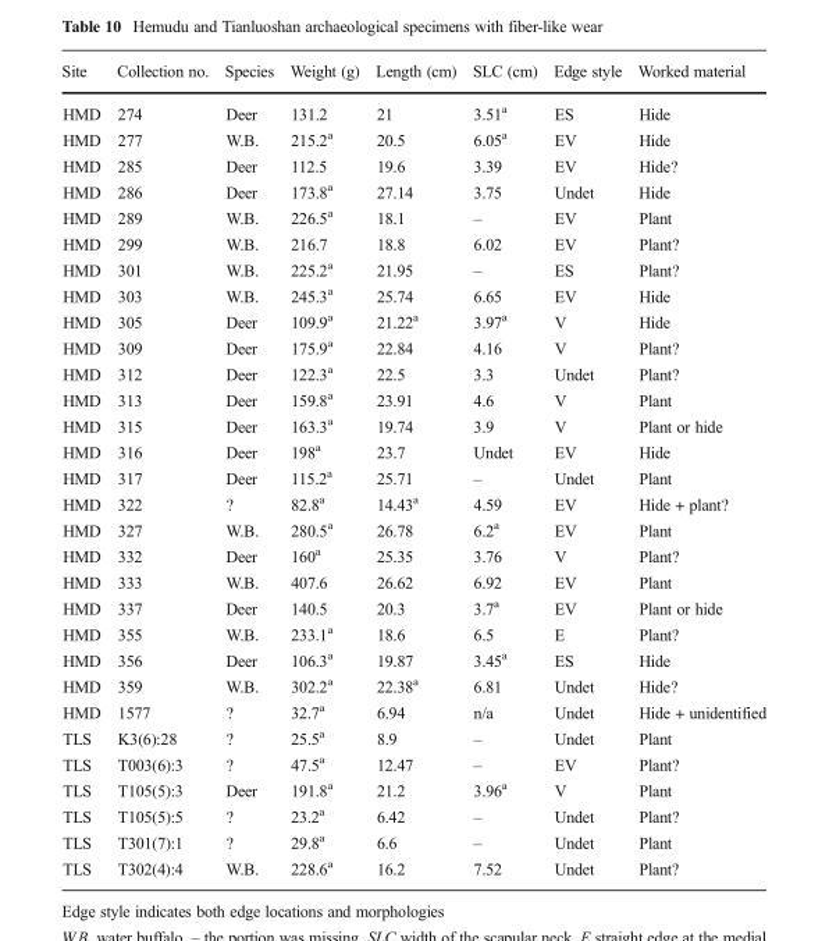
<table><thead><tr><td>Site</td><td>Collection no.</td><td>Species</td><td>Weight (g)</td><td>Length (cm)</td><td>SLC (cm)</td><td>Edge style</td><td>Worked material</td></tr></thead><tbody><tr><td>HMD</td><td>274</td><td>Deer</td><td>131.2</td><td>21</td><td>3.51<sup>a</sup></td><td>ES</td><td>Hide</td></tr><tr><td>HMD</td><td>277</td><td>W.B.</td><td>215.2<sup>a</sup></td><td>20.5</td><td>6.05<sup>a</sup></td><td>EV</td><td>Hide</td></tr><tr><td>HMD</td><td>285</td><td>Deer</td><td>112.5</td><td>19.6</td><td>3.39</td><td>EV</td><td>Hide?</td></tr><tr><td>HMD</td><td>286</td><td>Deer</td><td>173.8<sup>a</sup></td><td>27.14</td><td>3.75</td><td>Undet</td><td>Hide</td></tr><tr><td>HMD</td><td>289</td><td>W.B.</td><td>226.5<sup>a</sup></td><td>18.1</td><td>–</td><td>EV</td><td>Plant</td></tr><tr><td>HMD</td><td>299</td><td>W.B.</td><td>216.7</td><td>18.8</td><td>6.02</td><td>EV</td><td>Plant?</td></tr><tr><td>HMD</td><td>301</td><td>W.B.</td><td>225.2<sup>a</sup></td><td>21.95</td><td>–</td><td>ES</td><td>Plant?</td></tr><tr><td>HMD</td><td>303</td><td>W.B.</td><td>245.3<sup>a</sup></td><td>25.74</td><td>6.65</td><td>EV</td><td>Hide</td></tr><tr><td>HMD</td><td>305</td><td>Deer</td><td>109.9<sup>a</sup></td><td>21.22<sup>a</sup></td><td>3.97<sup>a</sup></td><td>V</td><td>Hide</td></tr><tr><td>HMD</td><td>309</td><td>Deer</td><td>175.9<sup>a</sup></td><td>22.84</td><td>4.16</td><td>V</td><td>Plant?</td></tr><tr><td>HMD</td><td>312</td><td>Deer</td><td>122.3<sup>a</sup></td><td>22.5</td><td>3.3</td><td>Undet</td><td>Plant?</td></tr><tr><td>HMD</td><td>313</td><td>Deer</td><td>159.8<sup>a</sup></td><td>23.91</td><td>4.6</td><td>V</td><td>Plant</td></tr><tr><td>HMD</td><td>315</td><td>Deer</td><td>163.3<sup>a</sup></td><td>19.74</td><td>3.9</td><td>V</td><td>Plant or hide</td></tr><tr><td>HMD</td><td>316</td><td>Deer</td><td>198<sup>a</sup></td><td>23.7</td><td>Undet</td><td>EV</td><td>Hide</td></tr><tr><td>HMD</td><td>317</td><td>Deer</td><td>115.2<sup>a</sup></td><td>25.71</td><td>–</td><td>Undet</td><td>Plant</td></tr><tr><td>HMD</td><td>322</td><td>?</td><td>82.8<sup>a</sup></td><td>14.43<sup>a</sup></td><td>4.59</td><td>EV</td><td>Hide + plant?</td></tr><tr><td>HMD</td><td>327</td><td>W.B.</td><td>280.5<sup>a</sup></td><td>26.78</td><td>6.2<sup>a</sup></td><td>EV</td><td>Plant</td></tr><tr><td>HMD</td><td>332</td><td>Deer</td><td>160<sup>a</sup></td><td>25.35</td><td>3.76</td><td>V</td><td>Plant?</td></tr><tr><td>HMD</td><td>333</td><td>W.B.</td><td>407.6</td><td>26.62</td><td>6.92</td><td>EV</td><td>Plant</td></tr><tr><td>HMD</td><td>337</td><td>Deer</td><td>140.5</td><td>20.3</td><td>3.7<sup>a</sup></td><td>EV</td><td>Plant or hide</td></tr><tr><td>HMD</td><td>355</td><td>W.B.</td><td>233.1<sup>a</sup></td><td>18.6</td><td>6.5</td><td>E</td><td>Plant?</td></tr><tr><td>HMD</td><td>356</td><td>Deer</td><td>106.3<sup>a</sup></td><td>19.87</td><td>3.45<sup>a</sup></td><td>ES</td><td>Hide</td></tr><tr><td>HMD</td><td>359</td><td>W.B.</td><td>302.2<sup>a</sup></td><td>22.38<sup>a</sup></td><td>6.81</td><td>Undet</td><td>Hide?</td></tr><tr><td>HMD</td><td>1577</td><td>?</td><td>32.7<sup>a</sup></td><td>6.94</td><td>n/a</td><td>Undet</td><td>Hide + unidentified</td></tr><tr><td>TLS</td><td>K3(6):28</td><td>?</td><td>25.5<sup>a</sup></td><td>8.9</td><td>–</td><td>Undet</td><td>Plant</td></tr><tr><td>TLS</td><td>T003(6):3</td><td>?</td><td>47.5<sup>a</sup></td><td>12.47</td><td>–</td><td>EV</td><td>Plant?</td></tr><tr><td>TLS</td><td>T105(5):3</td><td>Deer</td><td>191.8<sup>a</sup></td><td>21.2</td><td>3.96<sup>a</sup></td><td>V</td><td>Plant</td></tr><tr><td>TLS</td><td>T105(5):5</td><td>?</td><td>23.2<sup>a</sup></td><td>6.42</td><td>–</td><td>Undet</td><td>Plant?</td></tr><tr><td>TLS</td><td>T301(7):1</td><td>?</td><td>29.8<sup>a</sup></td><td>6.6</td><td>–</td><td>Undet</td><td>Plant</td></tr><tr><td>TLS</td><td>T302(4):4</td><td>W.B.</td><td>228.6<sup>a</sup></td><td>16.2</td><td>7.52</td><td>Undet</td><td>Plant?</td></tr></tbody></table>